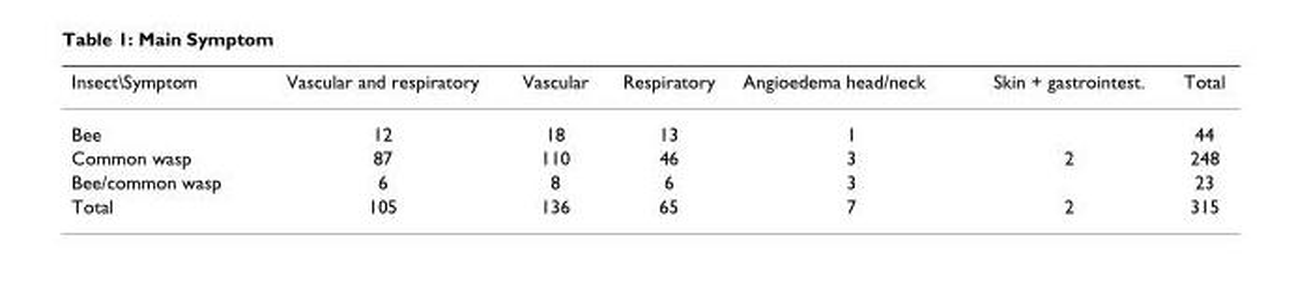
<table><thead><tr><td>Insect\Symptom</td><td>Vascular and respiratory</td><td>Vascular</td><td>Respiratory</td><td>Angioedema head/neck</td><td>Skin + gastrointest.</td><td>Total</td></tr></thead><tbody><tr><td>Bee</td><td>12</td><td>18</td><td>13</td><td>1</td><td></td><td>44</td></tr><tr><td>Common wasp</td><td>87</td><td>110</td><td>46</td><td>3</td><td>2</td><td>248</td></tr><tr><td>Bee/common wasp</td><td>6</td><td>8</td><td>6</td><td>3</td><td></td><td>23</td></tr><tr><td>Total</td><td>105</td><td>136</td><td>65</td><td>7</td><td>2</td><td>315</td></tr></tbody></table>